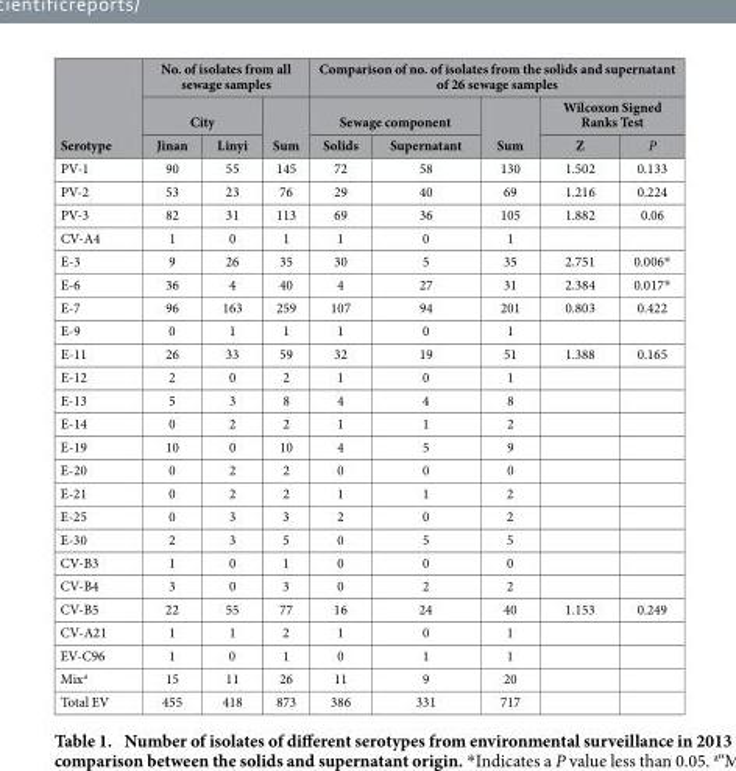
<table><thead><tr><td rowspan="3">Serotype</td><td colspan="3">No. of isolates from all sewage samples</td><td colspan="5">Comparison of no. of isolates from the solids and supernatant of 26 sewage samples</td></tr><tr><td colspan="2">City</td><td rowspan="2">Sum</td><td colspan="2">Sewage component</td><td rowspan="2">Sum</td><td colspan="2">Wilcoxon Signed Ranks Test</td></tr><tr><td>Jinan</td><td>Linyi</td><td>Solids</td><td>Supernatant</td><td>Z</td><td>P</td></tr></thead><tbody><tr><td>PV-1</td><td>90</td><td>55</td><td>145</td><td>72</td><td>58</td><td>130</td><td>1.502</td><td>0.133</td></tr><tr><td>PV-2</td><td>53</td><td>23</td><td>76</td><td>29</td><td>40</td><td>69</td><td>1.216</td><td>0.224</td></tr><tr><td>PV-3</td><td>82</td><td>31</td><td>113</td><td>69</td><td>36</td><td>105</td><td>1.882</td><td>0.06</td></tr><tr><td>CV-A4</td><td>1</td><td>0</td><td>1</td><td>1</td><td>0</td><td>1</td><td></td><td></td></tr><tr><td>E-3</td><td>9</td><td>26</td><td>35</td><td>30</td><td>5</td><td>35</td><td>2.751</td><td>0.006*</td></tr><tr><td>E-6</td><td>36</td><td>4</td><td>40</td><td>4</td><td>27</td><td>31</td><td>2.384</td><td>0.017*</td></tr><tr><td>E-7</td><td>96</td><td>163</td><td>259</td><td>107</td><td>94</td><td>201</td><td>0.803</td><td>0.422</td></tr><tr><td>E-9</td><td>0</td><td>1</td><td>1</td><td>1</td><td>0</td><td>1</td><td></td><td></td></tr><tr><td>E-11</td><td>26</td><td>33</td><td>59</td><td>32</td><td>19</td><td>51</td><td>1.388</td><td>0.165</td></tr><tr><td>E-12</td><td>2</td><td>0</td><td>2</td><td>1</td><td>0</td><td>1</td><td></td><td></td></tr><tr><td>E-13</td><td>5</td><td>3</td><td>8</td><td>4</td><td>4</td><td>8</td><td></td><td></td></tr><tr><td>E-14</td><td>0</td><td>2</td><td>2</td><td>1</td><td>1</td><td>2</td><td></td><td></td></tr><tr><td>E-19</td><td>10</td><td>0</td><td>10</td><td>4</td><td>5</td><td>9</td><td></td><td></td></tr><tr><td>E-20</td><td>0</td><td>2</td><td>2</td><td>0</td><td>0</td><td>0</td><td></td><td></td></tr><tr><td>E-21</td><td>0</td><td>2</td><td>2</td><td>1</td><td>1</td><td>2</td><td></td><td></td></tr><tr><td>E-25</td><td>0</td><td>3</td><td>3</td><td>2</td><td>0</td><td>2</td><td></td><td></td></tr><tr><td>E-30</td><td>2</td><td>3</td><td>5</td><td>0</td><td>5</td><td>5</td><td></td><td></td></tr><tr><td>CV-B3</td><td>1</td><td>0</td><td>1</td><td>0</td><td>0</td><td>0</td><td></td><td></td></tr><tr><td>CV-B4</td><td>3</td><td>0</td><td>3</td><td>0</td><td>2</td><td>2</td><td></td><td></td></tr><tr><td>CV-B5</td><td>22</td><td>55</td><td>77</td><td>16</td><td>24</td><td>40</td><td>1.153</td><td>0.249</td></tr><tr><td>CV-A21</td><td>1</td><td>1</td><td>2</td><td>1</td><td>0</td><td>1</td><td></td><td></td></tr><tr><td>EV-C96</td><td>1</td><td>0</td><td>1</td><td>0</td><td>1</td><td>1</td><td></td><td></td></tr><tr><td>Mix<sup>a</sup></td><td>15</td><td>11</td><td>26</td><td>11</td><td>9</td><td>20</td><td></td><td></td></tr><tr><td>Total EV</td><td>455</td><td>418</td><td>873</td><td>386</td><td>331</td><td>717</td><td></td><td></td></tr></tbody></table>